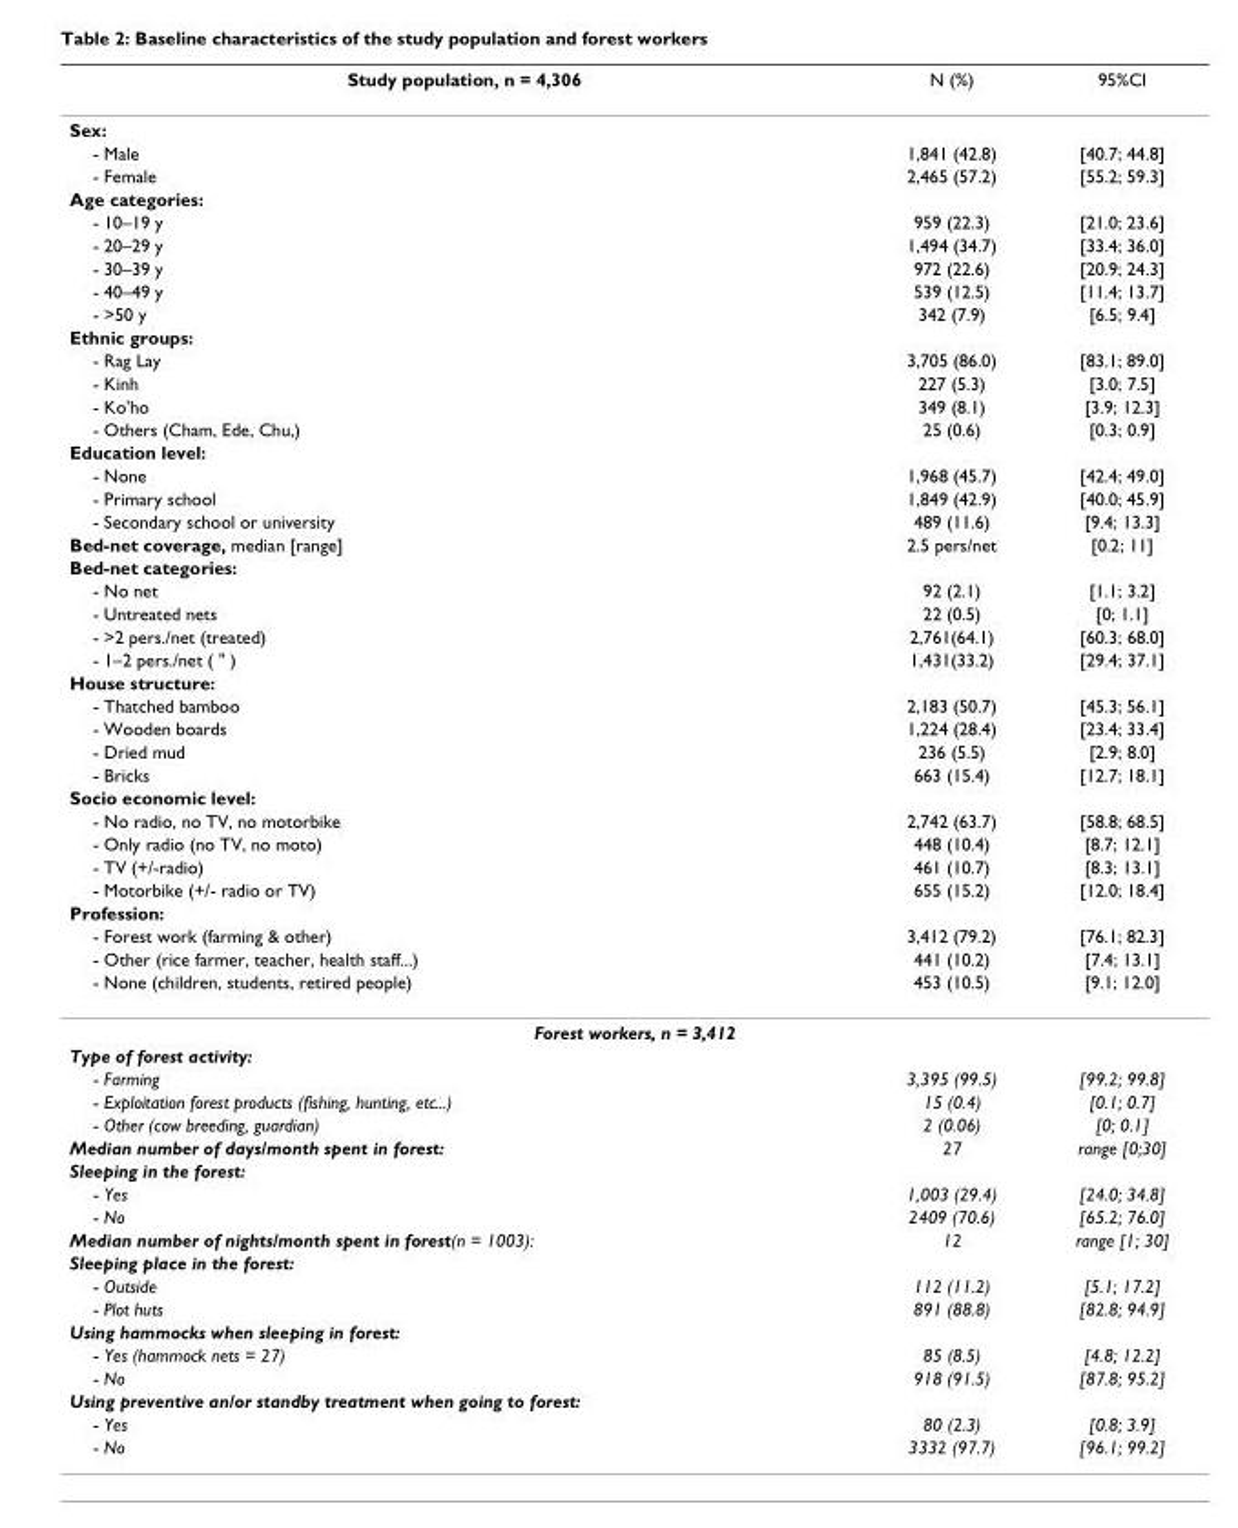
<table><thead><tr><td>Study population, n = 4,306</td><td>N (%)</td><td>95%CI</td></tr></thead><tbody><tr><td colspan="3">Sex:</td></tr><tr><td>- Male</td><td>1,841 (42.8)</td><td>[40.7; 44.8]</td></tr><tr><td>- Female</td><td>2,465 (57.2)</td><td>[55.2; 59.3]</td></tr><tr><td colspan="3">Age categories:</td></tr><tr><td>- 10–19 y</td><td>959 (22.3)</td><td>[21.0; 23.6]</td></tr><tr><td>- 20–29 y</td><td>1,494 (34.7)</td><td>[33.4; 36.0]</td></tr><tr><td>- 30–39 y</td><td>972 (22.6)</td><td>[20.9; 24.3]</td></tr><tr><td>- 40–49 y</td><td>539 (12.5)</td><td>[11.4; 13.7]</td></tr><tr><td>- &gt;50 y</td><td>342 (7.9)</td><td>[6.5; 9.4]</td></tr><tr><td colspan="3">Ethnic groups:</td></tr><tr><td>- Rag Lay</td><td>3,705 (86.0)</td><td>[83.1; 89.0]</td></tr><tr><td>- Kinh</td><td>227 (5.3)</td><td>[3.0; 7.5]</td></tr><tr><td>- Ko&#x27;ho</td><td>349 (8.1)</td><td>[3.9; 12.3]</td></tr><tr><td>- Others (Cham, Ede, Chu,)</td><td>25 (0.6)</td><td>[0.3; 0.9]</td></tr><tr><td colspan="3">Education level:</td></tr><tr><td>- None</td><td>1,968 (45.7)</td><td>[42.4; 49.0]</td></tr><tr><td>- Primary school</td><td>1,849 (42.9)</td><td>[40.0; 45.9]</td></tr><tr><td>- Secondary school or university</td><td>489 (11.6)</td><td>[9.4; 13.3]</td></tr><tr><td>Bed-net coverage, median [range]</td><td>2.5 pers/net</td><td>[0.2; 11]</td></tr><tr><td colspan="3">Bed-net categories:</td></tr><tr><td>- No net</td><td>92 (2.1)</td><td>[1.1; 3.2]</td></tr><tr><td>- Untreated nets</td><td>22 (0.5)</td><td>[0; 1.1]</td></tr><tr><td>- &gt;2 pers./net (treated)</td><td>2,761(64.1)</td><td>[60.3; 68.0]</td></tr><tr><td>- 1–2 pers./net ( &quot; )</td><td>1,431(33.2)</td><td>[29.4; 37.1]</td></tr><tr><td colspan="3">House structure:</td></tr><tr><td>- Thatched bamboo</td><td>2,183 (50.7)</td><td>[45.3; 56.1]</td></tr><tr><td>- Wooden boards</td><td>1,224 (28.4)</td><td>[23.4; 33.4]</td></tr><tr><td>- Dried mud</td><td>236 (5.5)</td><td>[2.9; 8.0]</td></tr><tr><td>- Bricks</td><td>663 (15.4)</td><td>[12.7; 18.1]</td></tr><tr><td colspan="3">Socio economic level:</td></tr><tr><td>- No radio, no TV, no motorbike</td><td>2,742 (63.7)</td><td>[58.8; 68.5]</td></tr><tr><td>- Only radio (no TV, no moto)</td><td>448 (10.4)</td><td>[8.7; 12.1]</td></tr><tr><td>- TV (+/-radio)</td><td>461 (10.7)</td><td>[8.3; 13.1]</td></tr><tr><td>- Motorbike (+/- radio or TV)</td><td>655 (15.2)</td><td>[12.0; 18.4]</td></tr><tr><td colspan="3">Profession:</td></tr><tr><td>- Forest work (farming &amp; other)</td><td>3,412 (79.2)</td><td>[76.1; 82.3]</td></tr><tr><td>- Other (rice farmer, teacher, health staff...)</td><td>441 (10.2)</td><td>[7.4; 13.1]</td></tr><tr><td>- None (children, students, retired people)</td><td>453 (10.5)</td><td>[9.1; 12.0]</td></tr><tr><td colspan="3">Forest workers, n = 3,412</td></tr><tr><td colspan="3">Type of forest activity:</td></tr><tr><td>- Farming</td><td>3,395 (99.5)</td><td>[99.2; 99.8]</td></tr><tr><td>- Exploitation forest products (fishing, hunting, etc...)</td><td>15 (0.4)</td><td>[0.1; 0.7]</td></tr><tr><td>- Other (cow breeding, guardian)</td><td>2 (0.06)</td><td>[0; 0.1]</td></tr><tr><td>Median number of days/month spent in forest:</td><td>27</td><td>range [0;30]</td></tr><tr><td colspan="3">Sleeping in the forest:</td></tr><tr><td>- Yes</td><td>1,003 (29.4)</td><td>[24.0; 34.8]</td></tr><tr><td>- No</td><td>2409 (70.6)</td><td>[65.2; 76.0]</td></tr><tr><td>Median number of nights/month spent in forest(n = 1003):</td><td>12</td><td>range [1; 30]</td></tr><tr><td colspan="3">Sleeping place in the forest:</td></tr><tr><td>- Outside</td><td>112 (11.2)</td><td>[5.1; 17.2]</td></tr><tr><td>- Plot huts</td><td>891 (88.8)</td><td>[82.8; 94.9]</td></tr><tr><td colspan="3">Using hammocks when sleeping in forest:</td></tr><tr><td>- Yes (hammock nets = 27)</td><td>85 (8.5)</td><td>[4.8; 12.2]</td></tr><tr><td>- No</td><td>918 (91.5)</td><td>[87.8; 95.2]</td></tr><tr><td colspan="3">Using preventive an/or standby treatment when going to forest:</td></tr><tr><td>- Yes</td><td>80 (2.3)</td><td>[0.8; 3.9]</td></tr><tr><td>- No</td><td>3332 (97.7)</td><td>[96.1; 99.2]</td></tr></tbody></table>